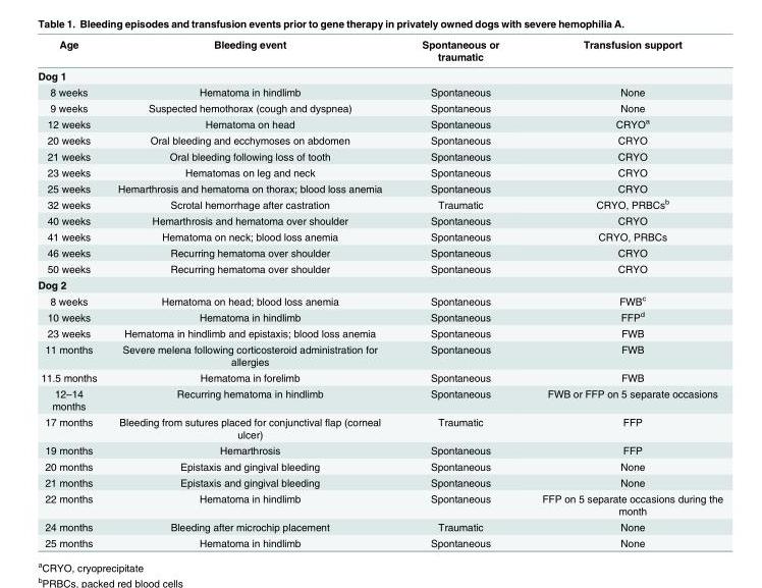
<table><thead><tr><td>Age</td><td>Bleeding event</td><td>Spontaneous or traumatic</td><td>Transfusion support</td></tr></thead><tbody><tr><td colspan="4">Dog 1</td></tr><tr><td>8 weeks</td><td>Hematoma in hindlimb</td><td>Spontaneous</td><td>None</td></tr><tr><td>9 weeks</td><td>Suspected hemothorax (cough and dyspnea)</td><td>Spontaneous</td><td>None</td></tr><tr><td>12 weeks</td><td>Hematoma on head</td><td>Spontaneous</td><td>CRYO<sup>a</sup></td></tr><tr><td>20 weeks</td><td>Oral bleeding and ecchymoses on abdomen</td><td>Spontaneous</td><td>CRYO</td></tr><tr><td>21 weeks</td><td>Oral bleeding following loss of tooth</td><td>Spontaneous</td><td>CRYO</td></tr><tr><td>23 weeks</td><td>Hematomas on leg and neck</td><td>Spontaneous</td><td>CRYO</td></tr><tr><td>25 weeks</td><td>Hemarthrosis and hematoma on thorax; blood loss anemia</td><td>Spontaneous</td><td>CRYO</td></tr><tr><td>32 weeks</td><td>Scrotal hemorrhage after castration</td><td>Traumatic</td><td>CRYO, PRBCs<sup>b</sup></td></tr><tr><td>40 weeks</td><td>Hemarthrosis and hematoma over shoulder</td><td>Spontaneous</td><td>CRYO</td></tr><tr><td>41 weeks</td><td>Hematoma on neck; blood loss anemia</td><td>Spontaneous</td><td>CRYO, PRBCs</td></tr><tr><td>46 weeks</td><td>Recurring hematoma over shoulder</td><td>Spontaneous</td><td>CRYO</td></tr><tr><td>50 weeks</td><td>Recurring hematoma over shoulder</td><td>Spontaneous</td><td>CRYO</td></tr><tr><td colspan="4">Dog 2</td></tr><tr><td>8 weeks</td><td>Hematoma on head; blood loss anemia</td><td>Spontaneous</td><td>FWB<sup>c</sup></td></tr><tr><td>10 weeks</td><td>Hematoma in hindlimb</td><td>Spontaneous</td><td>FFP<sup>d</sup></td></tr><tr><td>23 weeks</td><td>Hematoma in hindlimb and epistaxis; blood loss anemia</td><td>Spontaneous</td><td>FWB</td></tr><tr><td>11 months</td><td>Severe melena following corticosteroid administration for allergies</td><td>Spontaneous</td><td>FWB</td></tr><tr><td>11.5 months</td><td>Hematoma in forelimb</td><td>Spontaneous</td><td>FWB</td></tr><tr><td>12–14 months</td><td>Recurring hematoma in hindlimb</td><td>Spontaneous</td><td>FWB or FFP on 5 separate occasions</td></tr><tr><td>17 months</td><td>Bleeding from sutures placed for conjunctival flap (corneal ulcer)</td><td>Traumatic</td><td>FFP</td></tr><tr><td>19 months</td><td>Hemarthrosis</td><td>Spontaneous</td><td>FFP</td></tr><tr><td>20 months</td><td>Epistaxis and gingival bleeding</td><td>Spontaneous</td><td>None</td></tr><tr><td>21 months</td><td>Epistaxis and gingival bleeding</td><td>Spontaneous</td><td>None</td></tr><tr><td>22 months</td><td>Hematoma in hindlimb</td><td>Spontaneous</td><td>FFP on 5 separate occasions during the month</td></tr><tr><td>24 months</td><td>Bleeding after microchip placement</td><td>Traumatic</td><td>None</td></tr><tr><td>25 months</td><td>Hematoma in hindlimb</td><td>Spontaneous</td><td>None</td></tr></tbody></table>